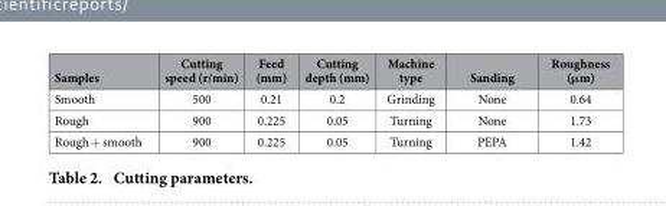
<table><thead><tr><td>Samples</td><td>Cutting speed (r/min)</td><td>Feed (mm)</td><td>Cutting depth (mm)</td><td>Machine type</td><td>Sanding</td><td>Roughness (μm)</td></tr></thead><tbody><tr><td>Smooth</td><td>500</td><td>0.21</td><td>0.2</td><td>Grinding</td><td>None</td><td>0.64</td></tr><tr><td>Rough</td><td>900</td><td>0.225</td><td>0.05</td><td>Turning</td><td>None</td><td>1.73</td></tr><tr><td>Rough + smooth</td><td>900</td><td>0.225</td><td>0.05</td><td>Turning</td><td>PEPA</td><td>1.42</td></tr></tbody></table>